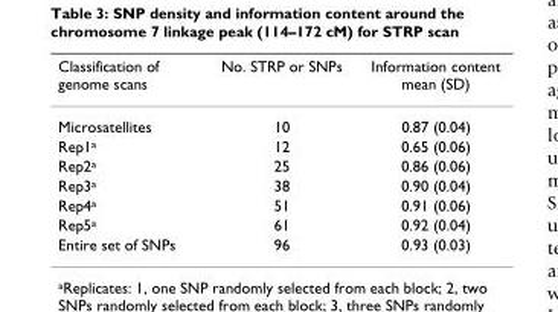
<table><thead><tr><td>Classification of genome scans</td><td>No. STRP or SNPs</td><td>Information content mean (SD)</td></tr></thead><tbody><tr><td>Microsatellites</td><td>10</td><td>0.87 (0.04)</td></tr><tr><td>Rep1a</td><td>12</td><td>0.65 (0.06)</td></tr><tr><td>Rep2a</td><td>25</td><td>0.86 (0.06)</td></tr><tr><td>Rep3a</td><td>38</td><td>0.90 (0.04)</td></tr><tr><td>Rep4a</td><td>51</td><td>0.91 (0.06)</td></tr><tr><td>Rep5a</td><td>61</td><td>0.92 (0.04)</td></tr><tr><td>Entire set of SNPs</td><td>96</td><td>0.93 (0.03)</td></tr></tbody></table>